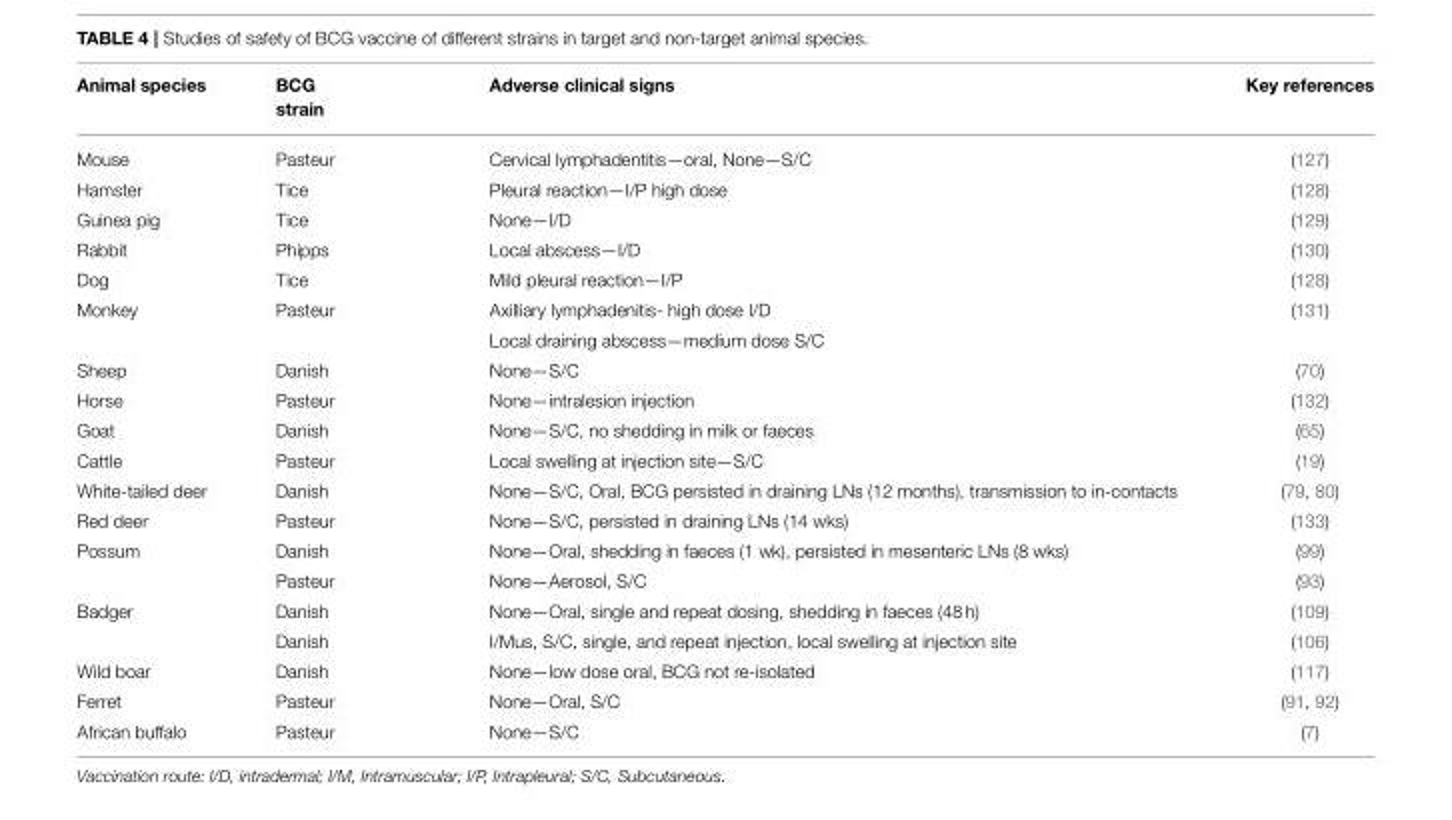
<table><thead><tr><td>Animal species</td><td>BCG strain</td><td>Adverse clinical signs</td><td>Key references</td></tr></thead><tbody><tr><td>Mouse</td><td>Pasteur</td><td>Cervical lymphadentitis—oral, None—S/C</td><td>(127)</td></tr><tr><td>Hamster</td><td>Tice</td><td>Pleural reaction—I/P high dose</td><td>(128)</td></tr><tr><td>Guinea pig</td><td>Tice</td><td>None—I/D</td><td>(129)</td></tr><tr><td>Rabbit</td><td>Phipps</td><td>Local abscess—I/D</td><td>(130)</td></tr><tr><td>Dog</td><td>Tice</td><td>Mild pleural reaction—I/P</td><td>(128)</td></tr><tr><td rowspan="2">Monkey</td><td>Pasteur</td><td>Axilliary lymphadenitis- high dose I/D</td><td>(131)</td></tr><tr><td></td><td>Local draining abscess—medium dose S/C</td><td></td></tr><tr><td>Sheep</td><td>Danish</td><td>None—S/C</td><td>(70)</td></tr><tr><td>Horse</td><td>Pasteur</td><td>None—intralesion injection</td><td>(132)</td></tr><tr><td>Goat</td><td>Danish</td><td>None—S/C, no shedding in milk or faeces</td><td>(65)</td></tr><tr><td>Cattle</td><td>Pasteur</td><td>Local swelling at injection site—S/C</td><td>(19)</td></tr><tr><td>White-tailed deer</td><td>Danish</td><td>None—S/C, Oral, BCG persisted in draining LNs (12 months), transmission to in-contacts</td><td>(79, 80)</td></tr><tr><td>Red deer</td><td>Pasteur</td><td>None—S/C, persisted in draining LNs (14 wks)</td><td>(133)</td></tr><tr><td rowspan="2">Possum</td><td>Danish</td><td>None—Oral, shedding in faeces (1 wk), persisted in mesenteric LNs (8 wks)</td><td>(99)</td></tr><tr><td>Pasteur</td><td>None—Aerosol, S/C</td><td>(93)</td></tr><tr><td rowspan="2">Badger</td><td>Danish</td><td>None—Oral, single and repeat dosing, shedding in faeces (48 h)</td><td>(109)</td></tr><tr><td>Danish</td><td>I/Mus, S/C, single, and repeat injection, local swelling at injection site</td><td>(106)</td></tr><tr><td>Wild boar</td><td>Danish</td><td>None—low dose oral, BCG not re-isolated</td><td>(117)</td></tr><tr><td>Ferret</td><td>Pasteur</td><td>None—Oral, S/C</td><td>(91, 92)</td></tr><tr><td>African buffalo</td><td>Pasteur</td><td>None—S/C</td><td>(7)</td></tr></tbody></table>